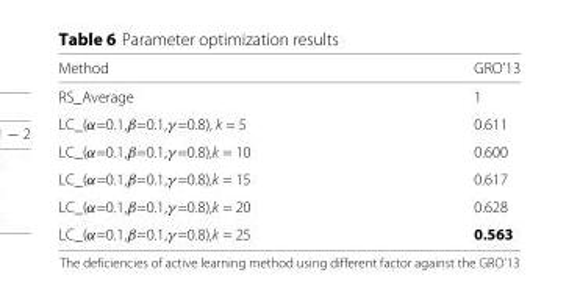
<table><thead><tr><td>Method</td><td>GRO’13</td></tr></thead><tbody><tr><td>RS_Average</td><td>1</td></tr><tr><td>LC_(α=0.1,β=0.1,γ =0.8), k = 5</td><td>0.611</td></tr><tr><td>LC_(α=0.1,β=0.1,γ =0.8),k = 10</td><td>0.600</td></tr><tr><td>LC_(α=0.1,β=0.1,γ =0.8),k = 15</td><td>0.617</td></tr><tr><td>LC_(α=0.1,β=0.1,γ =0.8),k = 20</td><td>0.628</td></tr><tr><td>LC_(α=0.1,β=0.1,γ =0.8),k = 25</td><td>0.563</td></tr></tbody></table>